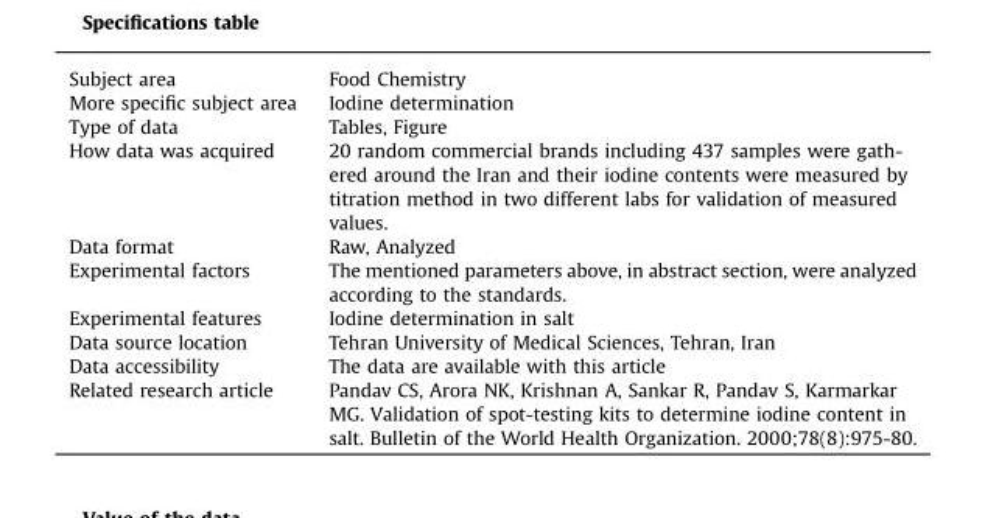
<table><tbody><tr><td>Subject area</td><td>Food Chemistry</td></tr><tr><td>More specific subject area</td><td>Iodine determination</td></tr><tr><td>Type of data</td><td>Tables, Figure</td></tr><tr><td>How data was acquired</td><td>20 random commercial brands including 437 samples were gath- ered around the Iran and their iodine contents were measured by titration method in two different labs for validation of measured values.</td></tr><tr><td>Data format</td><td>Raw, Analyzed</td></tr><tr><td>Experimental factors</td><td>The mentioned parameters above, in abstract section, were analyzed according to the standards.</td></tr><tr><td>Experimental features</td><td>Iodine determination in salt</td></tr><tr><td>Data source location</td><td>Tehran University of Medical Sciences, Tehran, Iran</td></tr><tr><td>Data accessibility</td><td>The data are available with this article</td></tr><tr><td>Related research article</td><td>Pandav CS, Arora NK, Krishnan A, Sankar R, Pandav S, Karmarkar MG. Validation of spot-testing kits to determine iodine content in salt. Bulletin of the World Health Organization. 2000;78(8):975-80.</td></tr></tbody></table>